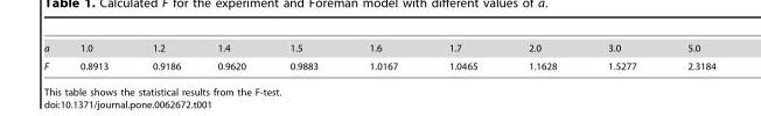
<table><tbody><tr><td>a</td><td>1.0</td><td>1.2</td><td>1.4</td><td>1.5</td><td>1.6</td><td>1.7</td><td>2.0</td><td>3.0</td><td>5.0</td></tr><tr><td>F</td><td>0.8913</td><td>0.9186</td><td>0.9620</td><td>0.9883</td><td>1.0167</td><td>1.0465</td><td>1.1628</td><td>1.5277</td><td>2.3184</td></tr></tbody></table>